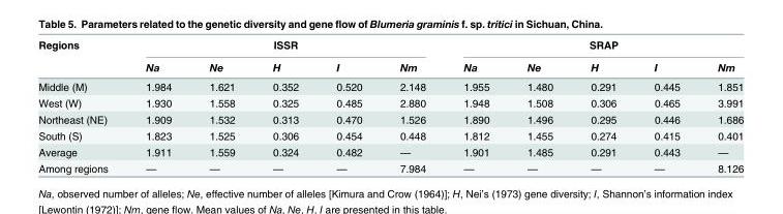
<table><thead><tr><td rowspan="2">Regions</td><td colspan="5">ISSR</td><td colspan="5">SRAP</td></tr><tr><td>Na</td><td>Ne</td><td>H</td><td>I</td><td>Nm</td><td>Na</td><td>Ne</td><td>H</td><td>I</td><td>Nm</td></tr></thead><tbody><tr><td>Middle (M)</td><td>1.984</td><td>1.621</td><td>0.352</td><td>0.520</td><td>2.148</td><td>1.955</td><td>1.480</td><td>0.291</td><td>0.445</td><td>1.851</td></tr><tr><td>West (W)</td><td>1.930</td><td>1.558</td><td>0.325</td><td>0.485</td><td>2.880</td><td>1.948</td><td>1.508</td><td>0.306</td><td>0.465</td><td>3.991</td></tr><tr><td>Northeast (NE)</td><td>1.909</td><td>1.532</td><td>0.313</td><td>0.470</td><td>1.526</td><td>1.890</td><td>1.496</td><td>0.295</td><td>0.446</td><td>1.686</td></tr><tr><td>South (S)</td><td>1.823</td><td>1.525</td><td>0.306</td><td>0.454</td><td>0.448</td><td>1.812</td><td>1.455</td><td>0.274</td><td>0.415</td><td>0.401</td></tr><tr><td>Average</td><td>1.911</td><td>1.559</td><td>0.324</td><td>0.482</td><td>—</td><td>1.901</td><td>1.485</td><td>0.291</td><td>0.443</td><td>—</td></tr><tr><td>Among regions</td><td>—</td><td>—</td><td>—</td><td>—</td><td>7.984</td><td>—</td><td>—</td><td>—</td><td>—</td><td>8.126</td></tr></tbody></table>